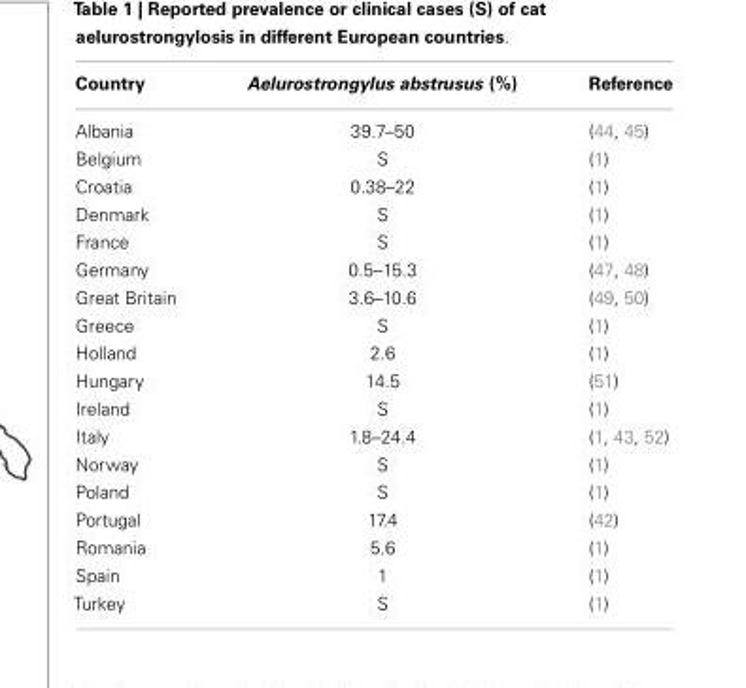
<table><thead><tr><td>Country</td><td>Aelurostrongylus abstrusus (%)</td><td>Reference</td></tr></thead><tbody><tr><td>Albania</td><td>39.7–50</td><td>(44, 45)</td></tr><tr><td>Belgium</td><td>S</td><td>(1)</td></tr><tr><td>Croatia</td><td>0.38–22</td><td>(1)</td></tr><tr><td>Denmark</td><td>S</td><td>(1)</td></tr><tr><td>France</td><td>S</td><td>(1)</td></tr><tr><td>Germany</td><td>0.5–15.3</td><td>(47, 48)</td></tr><tr><td>Great Britain</td><td>3.6–10.6</td><td>(49, 50)</td></tr><tr><td>Greece</td><td>S</td><td>(1)</td></tr><tr><td>Holland</td><td>2.6</td><td>(1)</td></tr><tr><td>Hungary</td><td>14.5</td><td>(51)</td></tr><tr><td>Ireland</td><td>S</td><td>(1)</td></tr><tr><td>Italy</td><td>1.8–24.4</td><td>(1, 43, 52)</td></tr><tr><td>Norway</td><td>S</td><td>(1)</td></tr><tr><td>Poland</td><td>S</td><td>(1)</td></tr><tr><td>Portugal</td><td>17.4</td><td>(42)</td></tr><tr><td>Romania</td><td>5.6</td><td>(1)</td></tr><tr><td>Spain</td><td>1</td><td>(1)</td></tr><tr><td>Turkey</td><td>S</td><td>(1)</td></tr></tbody></table>